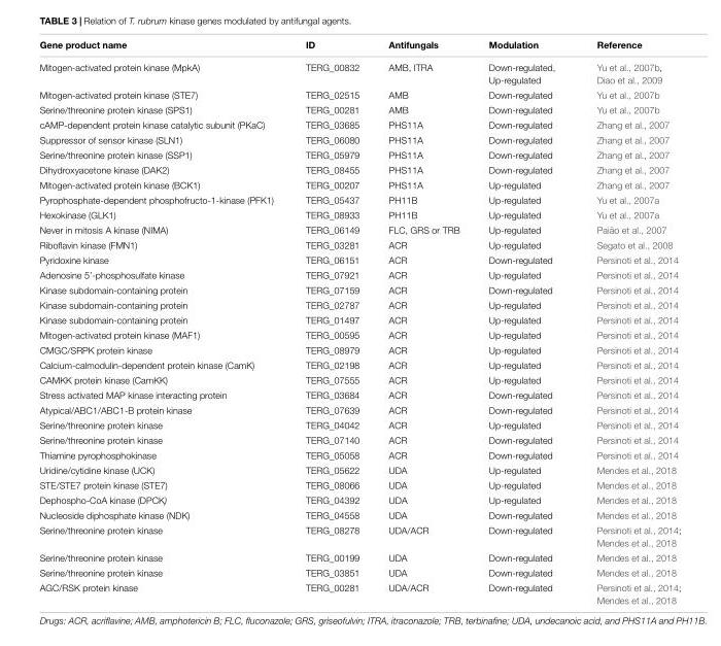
<table><thead><tr><td>Gene product name</td><td>ID</td><td>Antifungals</td><td>Modulation</td><td>Reference</td></tr></thead><tbody><tr><td>Mitogen-activated protein kinase (MpkA)</td><td>TERG_00832</td><td>AMB, ITRA</td><td>Down-regulated, Up-regulated</td><td>Yu et al., 2007b, Diao et al., 2009</td></tr><tr><td>Mitogen-activated protein kinase (STE7)</td><td>TERG_02515</td><td>AMB</td><td>Down-regulated</td><td>Yu et al., 2007b</td></tr><tr><td>Serine/threonine protein kinase (SPS1)</td><td>TERG_00281</td><td>AMB</td><td>Down-regulated</td><td>Yu et al., 2007b</td></tr><tr><td>cAMP-dependent protein kinase catalytic subunit (PKaC)</td><td>TERG_03685</td><td>PHS11A</td><td>Down-regulated</td><td>Zhang et al., 2007</td></tr><tr><td>Suppressor of sensor kinase (SLN1)</td><td>TERG_06080</td><td>PHS11A</td><td>Down-regulated</td><td>Zhang et al., 2007</td></tr><tr><td>Serine/threonine protein kinase (SSP1)</td><td>TERG_05979</td><td>PHS11A</td><td>Down-regulated</td><td>Zhang et al., 2007</td></tr><tr><td>Dihydroxyacetone kinase (DAK2)</td><td>TERG_08455</td><td>PHS11A</td><td>Down-regulated</td><td>Zhang et al., 2007</td></tr><tr><td>Mitogen-activated protein kinase (BCK1)</td><td>TERG_00207</td><td>PHS11A</td><td>Up-regulated</td><td>Zhang et al., 2007</td></tr><tr><td>Pyrophosphate-dependent phosphofructo-1-kinase (PFK1)</td><td>TERG_05437</td><td>PH11B</td><td>Up-regulated</td><td>Yu et al., 2007a</td></tr><tr><td>Hexokinase (GLK1)</td><td>TERG_08933</td><td>PH11B</td><td>Up-regulated</td><td>Yu et al., 2007a</td></tr><tr><td>Never in mitosis A kinase (NIMA)</td><td>TERG_06149</td><td>FLC, GRS or TRB</td><td>Up-regulated</td><td>Paião et al., 2007</td></tr><tr><td>Riboflavin kinase (FMN1)</td><td>TERG_03281</td><td>ACR</td><td>Up-regulated</td><td>Segato et al., 2008</td></tr><tr><td>Pyridoxine kinase</td><td>TERG_06151</td><td>ACR</td><td>Down-regulated</td><td>Persinoti et al., 2014</td></tr><tr><td>Adenosine 5’-phosphosulfate kinase</td><td>TERG_07921</td><td>ACR</td><td>Up-regulated</td><td>Persinoti et al., 2014</td></tr><tr><td>Kinase subdomain-containing protein</td><td>TERG_07159</td><td>ACR</td><td>Down-regulated</td><td>Persinoti et al., 2014</td></tr><tr><td>Kinase subdomain-containing protein</td><td>TERG_02787</td><td>ACR</td><td>Up-regulated</td><td>Persinoti et al., 2014</td></tr><tr><td>Kinase subdomain-containing protein</td><td>TERG_01497</td><td>ACR</td><td>Up-regulated</td><td>Persinoti et al., 2014</td></tr><tr><td>Mitogen-activated protein kinase (MAF1)</td><td>TERG_00595</td><td>ACR</td><td>Up-regulated</td><td>Persinoti et al., 2014</td></tr><tr><td>CMGC/SRPK protein kinase</td><td>TERG_08979</td><td>ACR</td><td>Up-regulated</td><td>Persinoti et al., 2014</td></tr><tr><td>Calcium-calmodulin-dependent protein kinase (CamK)</td><td>TERG_02198</td><td>ACR</td><td>Up-regulated</td><td>Persinoti et al., 2014</td></tr><tr><td>CAMKK protein kinase (CamKK)</td><td>TERG_07555</td><td>ACR</td><td>Up-regulated</td><td>Persinoti et al., 2014</td></tr><tr><td>Stress activated MAP kinase interacting protein</td><td>TERG_03684</td><td>ACR</td><td>Down-regulated</td><td>Persinoti et al., 2014</td></tr><tr><td>Atypical/ABC1/ABC1-B protein kinase</td><td>TERG_07639</td><td>ACR</td><td>Down-regulated</td><td>Persinoti et al., 2014</td></tr><tr><td>Serine/threonine protein kinase</td><td>TERG_04042</td><td>ACR</td><td>Up-regulated</td><td>Persinoti et al., 2014</td></tr><tr><td>Serine/threonine protein kinase</td><td>TERG_07140</td><td>ACR</td><td>Down-regulated</td><td>Persinoti et al., 2014</td></tr><tr><td>Thiamine pyrophosphokinase</td><td>TERG_05058</td><td>ACR</td><td>Down-regulated</td><td>Persinoti et al., 2014</td></tr><tr><td>Uridine/cytidine kinase (UCK)</td><td>TERG_05622</td><td>UDA</td><td>Up-regulated</td><td>Mendes et al., 2018</td></tr><tr><td>STE/STE7 protein kinase (STE7)</td><td>TERG_08066</td><td>UDA</td><td>Up-regulated</td><td>Mendes et al., 2018</td></tr><tr><td>Dephospho-CoA kinase (DPCK)</td><td>TERG_04392</td><td>UDA</td><td>Up-regulated</td><td>Mendes et al., 2018</td></tr><tr><td>Nucleoside diphosphate kinase (NDK)</td><td>TERG_04558</td><td>UDA</td><td>Down-regulated</td><td>Mendes et al., 2018</td></tr><tr><td>Serine/threonine protein kinase</td><td>TERG_08278</td><td>UDA/ACR</td><td>Down-regulated</td><td>Persinoti et al., 2014; Mendes et al., 2018</td></tr><tr><td>Serine/threonine protein kinase</td><td>TERG_00199</td><td>UDA</td><td>Down-regulated</td><td>Mendes et al., 2018</td></tr><tr><td>Serine/threonine protein kinase</td><td>TERG_03851</td><td>UDA</td><td>Down-regulated</td><td>Mendes et al., 2018</td></tr><tr><td>AGC/RSK protein kinase</td><td>TERG_00281</td><td>UDA/ACR</td><td>Down-regulated</td><td>Persinoti et al., 2014; Mendes et al., 2018</td></tr></tbody></table>